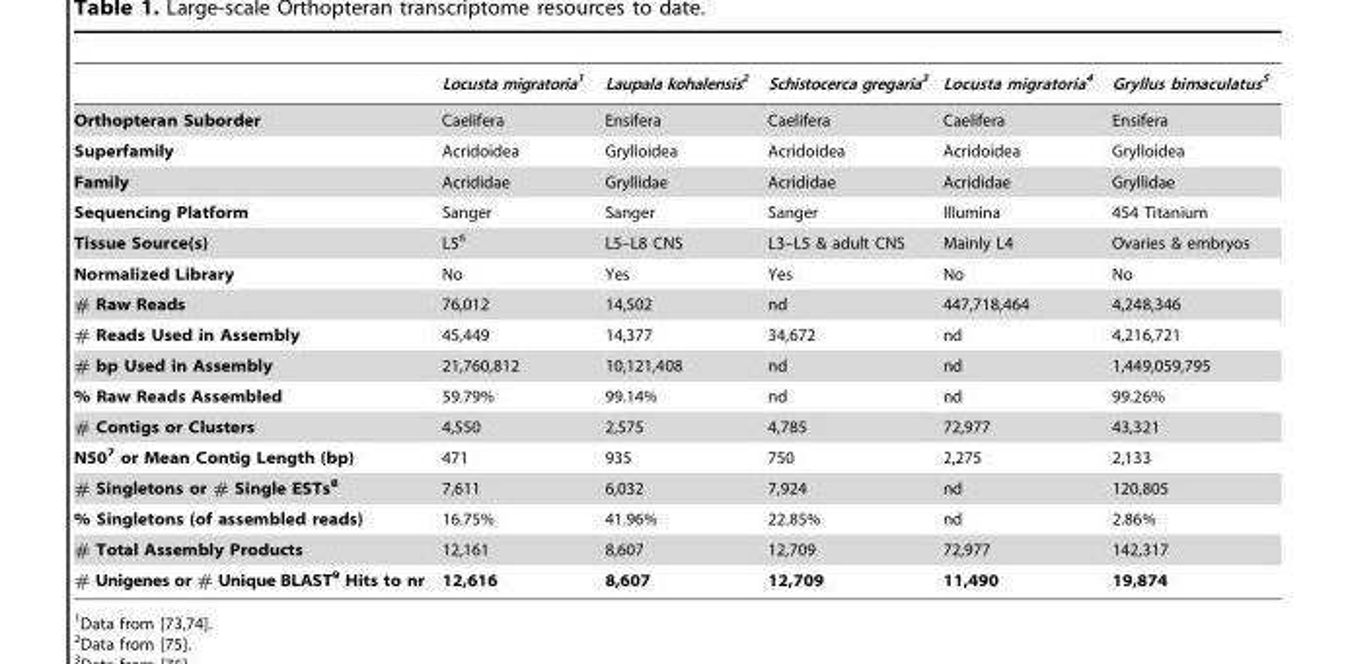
<table><thead><tr><td></td><td>Locusta migratoria1</td><td>Laupala kohalensis2</td><td>Schistocerca gregaria3</td><td>Locusta migratoria4</td><td>Gryllus bimaculatus5</td></tr></thead><tbody><tr><td>Orthopteran Suborder</td><td>Caelifera</td><td>Ensifera</td><td>Caelifera</td><td>Caelifera</td><td>Ensifera</td></tr><tr><td>Superfamily</td><td>Acridoidea</td><td>Grylloidea</td><td>Acridoidea</td><td>Acridoidea</td><td>Grylloidea</td></tr><tr><td>Family</td><td>Acrididae</td><td>Gryllidae</td><td>Acrididae</td><td>Acrididae</td><td>Gryllidae</td></tr><tr><td>Sequencing Platform</td><td>Sanger</td><td>Sanger</td><td>Sanger</td><td>Illumina</td><td>454 Titanium</td></tr><tr><td>Tissue Source(s)</td><td>L5<sup>6</sup></td><td>L5–L8 CNS</td><td>L3–L5 &amp; adult CNS</td><td>Mainly L4</td><td>Ovaries &amp; embryos</td></tr><tr><td>Normalized Library</td><td>No</td><td>Yes</td><td>Yes</td><td>No</td><td>No</td></tr><tr><td># Raw Reads</td><td>76,012</td><td>14,502</td><td>nd</td><td>447,718,464</td><td>4,248,346</td></tr><tr><td># Reads Used in Assembly</td><td>45,449</td><td>14,377</td><td>34,672</td><td>nd</td><td>4,216,721</td></tr><tr><td># bp Used in Assembly</td><td>21,760,812</td><td>10,121,408</td><td>nd</td><td>nd</td><td>1,449,059,795</td></tr><tr><td>% Raw Reads Assembled</td><td>59.79%</td><td>99.14%</td><td>nd</td><td>nd</td><td>99.26%</td></tr><tr><td># Contigs or Clusters</td><td>4,550</td><td>2,575</td><td>4,785</td><td>72,977</td><td>43,321</td></tr><tr><td>N507 or Mean Contig Length (bp)</td><td>471</td><td>935</td><td>750</td><td>2,275</td><td>2,133</td></tr><tr><td># Singletons or # Single ESTs8</td><td>7,611</td><td>6,032</td><td>7,924</td><td>nd</td><td>120,805</td></tr><tr><td>% Singletons (of assembled reads)</td><td>16.75%</td><td>41.96%</td><td>22.85%</td><td>nd</td><td>2.86%</td></tr><tr><td># Total Assembly Products</td><td>12,161</td><td>8,607</td><td>12,709</td><td>72,977</td><td>142,317</td></tr><tr><td># Unigenes or # Unique BLAST9 Hits to nr</td><td>12,616</td><td>8,607</td><td>12,709</td><td>11,490</td><td>19,874</td></tr></tbody></table>